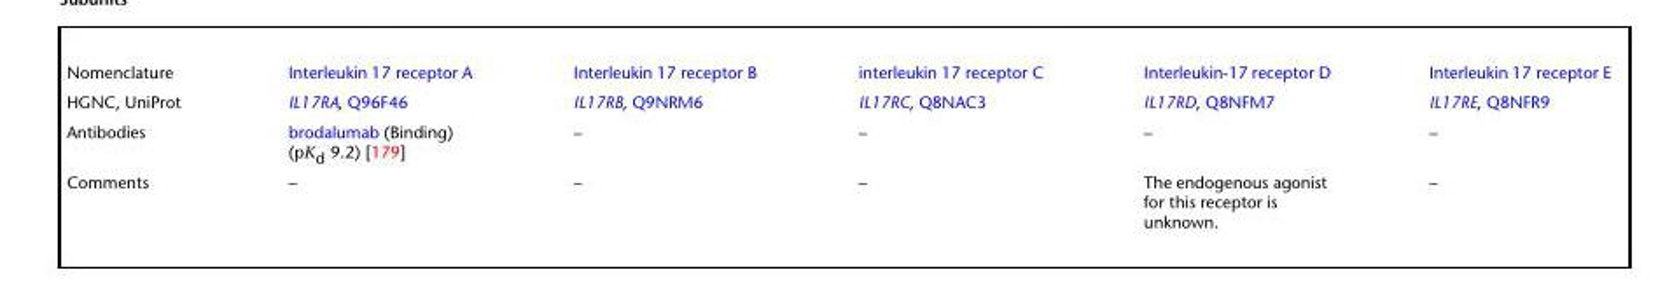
<table><tbody><tr><td>Nomenclature</td><td>Interleukin 17 receptor A</td><td>Interleukin 17 receptor B</td><td>interleukin 17 receptor C</td><td>Interleukin-17 receptor D</td><td>Interleukin 17 receptor E</td></tr><tr><td>HGNC, UniProt</td><td>IL17RA, Q96F46</td><td>IL17RB, Q9NRM6</td><td>IL17RC, Q8NAC3</td><td>IL17RD, Q8NFM7</td><td>IL17RE, Q8NFR9</td></tr><tr><td>Antibodies</td><td>brodalumab (Binding) (pKd 9.2) [179]</td><td>–</td><td>–</td><td>–</td><td>–</td></tr><tr><td>Comments</td><td>–</td><td>–</td><td>–</td><td>The endogenous agonist for this receptor is unknown.</td><td>–</td></tr></tbody></table>